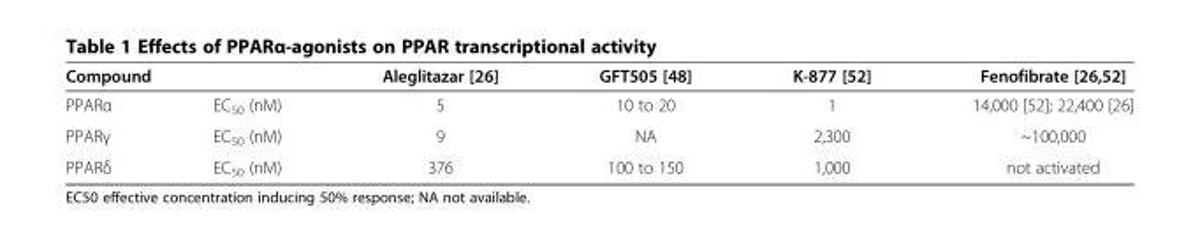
<table><thead><tr><td colspan="2">Compound</td><td rowspan="2">Aleglitazar [26] 5</td><td rowspan="2">GFT505 [48] 10 to 20</td><td rowspan="2">K-877 [52] 1</td><td rowspan="2">Fenofibrate [26,52] 14,000 [52]; 22,400 [26]</td></tr><tr><td>PPARα</td><td>EC<sub>50</sub> (nM)</td></tr></thead><tbody><tr><td>PPARγ</td><td>EC<sub>50</sub> (nM)</td><td>9</td><td>NA</td><td>2,300</td><td>~100,000</td></tr><tr><td>PPARδ</td><td>EC<sub>50</sub> (nM)</td><td>376</td><td>100 to 150</td><td>1,000</td><td>not activated</td></tr></tbody></table>